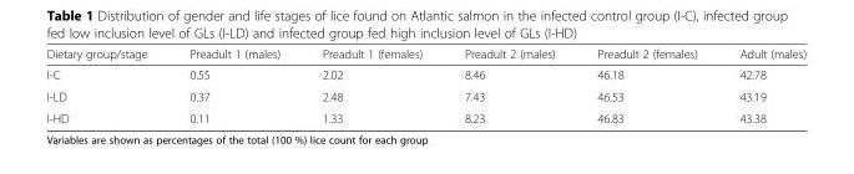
<table><thead><tr><td>Dietary group/stage</td><td>Preadult 1 (males)</td><td>Preadult 1 (females)</td><td>Preadult 2 (males)</td><td>Preadult 2 (females)</td><td>Adult (males)</td></tr></thead><tbody><tr><td>I-C</td><td>0.55</td><td>2.02</td><td>8.46</td><td>46.18</td><td>42.78</td></tr><tr><td>I-LD</td><td>0.37</td><td>2.48</td><td>7.43</td><td>46.53</td><td>43.19</td></tr><tr><td>I-HD</td><td>0.11</td><td>1.33</td><td>8.23</td><td>46.83</td><td>43.38</td></tr></tbody></table>